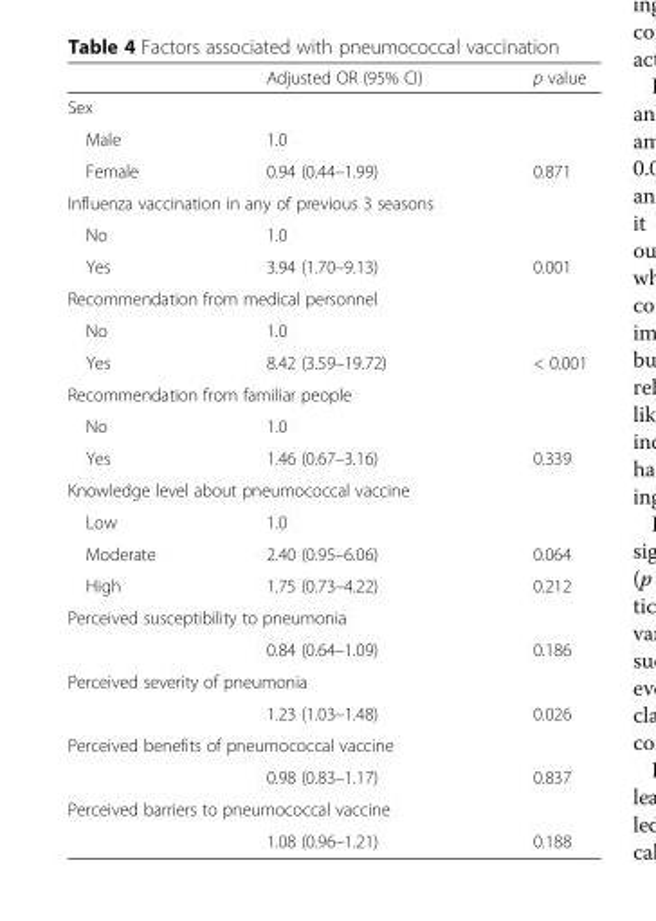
<table><thead><tr><td></td><td>Adjusted OR (95% CI)</td><td>p value</td></tr></thead><tbody><tr><td colspan="3">Sex</td></tr><tr><td>Male</td><td>1.0</td><td></td></tr><tr><td>Female</td><td>0.94 (0.44–1.99)</td><td>0.871</td></tr><tr><td colspan="3">Influenza vaccination in any of previous 3 seasons</td></tr><tr><td>No</td><td>1.0</td><td></td></tr><tr><td>Yes</td><td>3.94 (1.70–9.13)</td><td>0.001</td></tr><tr><td colspan="3">Recommendation from medical personnel</td></tr><tr><td>No</td><td>1.0</td><td></td></tr><tr><td>Yes</td><td>8.42 (3.59–19.72)</td><td>&lt; 0.001</td></tr><tr><td colspan="3">Recommendation from familiar people</td></tr><tr><td>No</td><td>1.0</td><td></td></tr><tr><td>Yes</td><td>1.46 (0.67–3.16)</td><td>0.339</td></tr><tr><td colspan="3">Knowledge level about pneumococcal vaccine</td></tr><tr><td>Low</td><td>1.0</td><td></td></tr><tr><td>Moderate</td><td>2.40 (0.95–6.06)</td><td>0.064</td></tr><tr><td>High</td><td>1.75 (0.73–4.22)</td><td>0.212</td></tr><tr><td colspan="3">Perceived susceptibility to pneumonia</td></tr><tr><td></td><td>0.84 (0.64–1.09)</td><td>0.186</td></tr><tr><td colspan="3">Perceived severity of pneumonia</td></tr><tr><td></td><td>1.23 (1.03–1.48)</td><td>0.026</td></tr><tr><td colspan="3">Perceived benefits of pneumococcal vaccine</td></tr><tr><td></td><td>0.98 (0.83–1.17)</td><td>0.837</td></tr><tr><td colspan="3">Perceived barriers to pneumococcal vaccine</td></tr><tr><td></td><td>1.08 (0.96–1.21)</td><td>0.188</td></tr></tbody></table>